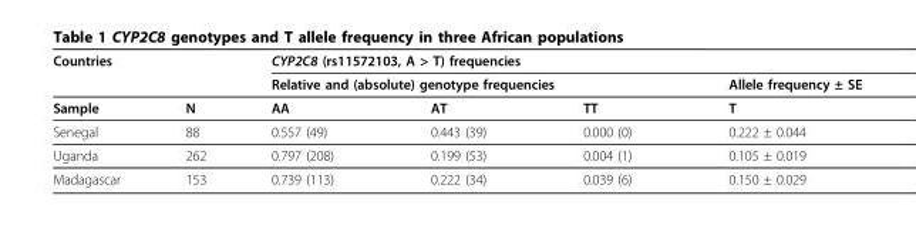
<table><thead><tr><td colspan="2">Countries</td><td colspan="4">CYP2C8 (rs11572103, A &gt; T) frequencies</td></tr><tr><td rowspan="2">Sample</td><td rowspan="2">N</td><td colspan="3">Relative and (absolute) genotype frequencies</td><td rowspan="2">Allele frequency ± SE T</td></tr><tr><td>AA</td><td>AT</td><td>TT</td></tr></thead><tbody><tr><td>Senegal</td><td>88</td><td>0.557 (49)</td><td>0.443 (39)</td><td>0.000 (0)</td><td>0.222 ± 0.044</td></tr><tr><td>Uganda</td><td>262</td><td>0.797 (208)</td><td>0.199 (53)</td><td>0.004 (1)</td><td>0.105 ± 0.019</td></tr><tr><td>Madagascar</td><td>153</td><td>0.739 (113)</td><td>0.222 (34)</td><td>0.039 (6)</td><td>0.150 ± 0.029</td></tr></tbody></table>